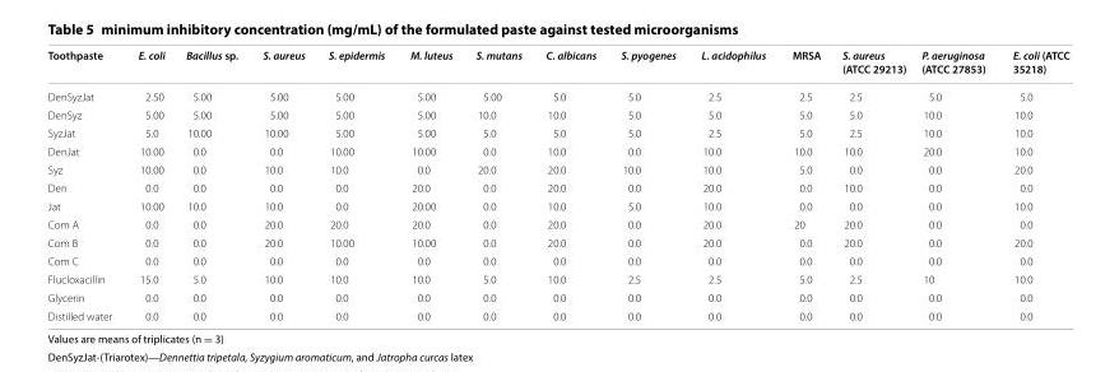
<table><thead><tr><td>Toothpaste</td><td>E. coli</td><td>Bacillus sp.</td><td>S. aureus</td><td>S. epidermis</td><td>M. luteus</td><td>S. mutans</td><td>C. albicans</td><td>S. pyogenes</td><td>L. acidophilus</td><td>MRSA</td><td>S. aureus (ATCC 29213)</td><td>P. aeruginosa (ATCC 27853)</td><td>E. coli (ATCC 35218)</td></tr></thead><tbody><tr><td>DenSyzJat</td><td>2.50</td><td>5.00</td><td>5.00</td><td>5.00</td><td>5.00</td><td>5.00</td><td>5.0</td><td>5.0</td><td>2.5</td><td>2.5</td><td>2.5</td><td>5.0</td><td>5.0</td></tr><tr><td>DenSyz</td><td>5.00</td><td>5.00</td><td>5.00</td><td>5.00</td><td>5.00</td><td>10.0</td><td>10.0</td><td>5.0</td><td>5.0</td><td>5.0</td><td>5.0</td><td>10.0</td><td>10.0</td></tr><tr><td>SyzJat</td><td>5.0</td><td>10.00</td><td>10.00</td><td>5.00</td><td>5.00</td><td>5.0</td><td>5.0</td><td>5.0</td><td>2.5</td><td>5.0</td><td>2.5</td><td>10.0</td><td>10.0</td></tr><tr><td>DenJat</td><td>10.00</td><td>0.0</td><td>0.0</td><td>10.00</td><td>10.00</td><td>0.0</td><td>10.0</td><td>0.0</td><td>10.0</td><td>10.0</td><td>10.0</td><td>20.0</td><td>10.0</td></tr><tr><td>Syz</td><td>10.00</td><td>0.0</td><td>10.0</td><td>10.0</td><td>0.0</td><td>20.0</td><td>20.0</td><td>10.0</td><td>10.0</td><td>5.0</td><td>0.0</td><td>0.0</td><td>20.0</td></tr><tr><td>Den</td><td>0.0</td><td>0.0</td><td>0.0</td><td>0.0</td><td>20.0</td><td>0.0</td><td>20.0</td><td>0.0</td><td>20.0</td><td>0.0</td><td>10.0</td><td>0.0</td><td>0.0</td></tr><tr><td>Jat</td><td>10.00</td><td>10.0</td><td>10.0</td><td>0.0</td><td>20.00</td><td>0.0</td><td>10.0</td><td>5.0</td><td>10.0</td><td>0.0</td><td>0.0</td><td>0.0</td><td>10.0</td></tr><tr><td>Com A</td><td>0.0</td><td>0.0</td><td>20.0</td><td>20.0</td><td>20.0</td><td>0.0</td><td>20.0</td><td>0.0</td><td>20.0</td><td>20</td><td>20.0</td><td>0.0</td><td>0.0</td></tr><tr><td>Com B</td><td>0.0</td><td>0.0</td><td>20.0</td><td>10.00</td><td>10.00</td><td>0.0</td><td>20.0</td><td>0.0</td><td>20.0</td><td>0.0</td><td>20.0</td><td>0.0</td><td>20.0</td></tr><tr><td>Com C</td><td>0.0</td><td>0.0</td><td>0.0</td><td>0.0</td><td>0.0</td><td>0.0</td><td>0.0</td><td>0.0</td><td>0.0</td><td>0.0</td><td>0.0</td><td>0.0</td><td>0.0</td></tr><tr><td>Flucloxacillin</td><td>15.0</td><td>5.0</td><td>10.0</td><td>10.0</td><td>10.0</td><td>5.0</td><td>10.0</td><td>2.5</td><td>2.5</td><td>5.0</td><td>2.5</td><td>10</td><td>10.0</td></tr><tr><td>Glycerin</td><td>0.0</td><td>0.0</td><td>0.0</td><td>0.0</td><td>0.0</td><td>0.0</td><td>0.0</td><td>0.0</td><td>0.0</td><td>0.0</td><td>0.0</td><td>0.0</td><td>0.0</td></tr><tr><td>Distilled water</td><td>0.0</td><td>0.0</td><td>0.0</td><td>0.0</td><td>0.0</td><td>0.0</td><td>0.0</td><td>0.0</td><td>0.0</td><td>0.0</td><td>0.0</td><td>0.0</td><td>0.0</td></tr></tbody></table>